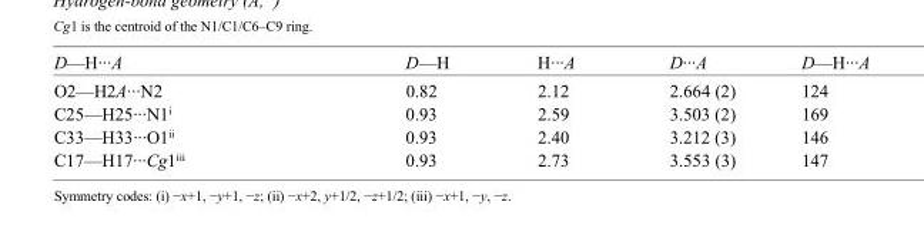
<table><tbody><tr><td>D—H···A</td><td>D—H</td><td>H···A</td><td>D···A</td><td>D—H···A</td></tr><tr><td>O2—H2A···N2</td><td>0.82</td><td>2.12</td><td>2.664 (2)</td><td>124</td></tr><tr><td>C25—H25···N1<sup>i</sup></td><td>0.93</td><td>2.59</td><td>3.503 (2)</td><td>169</td></tr><tr><td>C33—H33···O1<sup>ii</sup></td><td>0.93</td><td>2.40</td><td>3.212 (3)</td><td>146</td></tr><tr><td>C17—H17···Cg1<sup>iii</sup></td><td>0.93</td><td>2.73</td><td>3.553 (3)</td><td>147</td></tr></tbody></table>